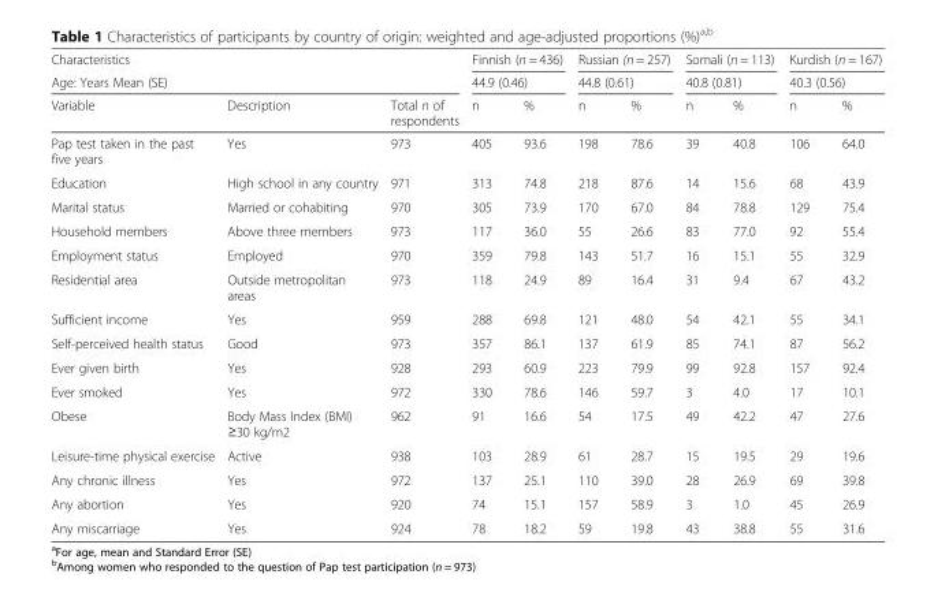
<table><thead><tr><td colspan="2">Characteristics</td><td></td><td rowspan="2" colspan="2">Finnish (n = 436) 44.9 (0.46)</td><td rowspan="2" colspan="2">Russian (n = 257) 44.8 (0.61)</td><td rowspan="2" colspan="2">Somali (n = 113) 40.8 (0.81)</td><td rowspan="2" colspan="2">Kurdish (n = 167) 40.3 (0.56)</td></tr><tr><td colspan="3">Age: Years Mean (SE)</td></tr><tr><td>Variable</td><td>Description</td><td>Total n of respondents</td><td>n</td><td>%</td><td>n</td><td>%</td><td>n</td><td>%</td><td>n</td><td>%</td></tr></thead><tbody><tr><td>Pap test taken in the past five years</td><td>Yes</td><td>973</td><td>405</td><td>93.6</td><td>198</td><td>78.6</td><td>39</td><td>40.8</td><td>106</td><td>64.0</td></tr><tr><td>Education</td><td>High school in any country</td><td>971</td><td>313</td><td>74.8</td><td>218</td><td>87.6</td><td>14</td><td>15.6</td><td>68</td><td>43.9</td></tr><tr><td>Marital status</td><td>Married or cohabiting</td><td>970</td><td>305</td><td>73.9</td><td>170</td><td>67.0</td><td>84</td><td>78.8</td><td>129</td><td>75.4</td></tr><tr><td>Household members</td><td>Above three members</td><td>973</td><td>117</td><td>36.0</td><td>55</td><td>26.6</td><td>83</td><td>77.0</td><td>92</td><td>55.4</td></tr><tr><td>Employment status</td><td>Employed</td><td>970</td><td>359</td><td>79.8</td><td>143</td><td>51.7</td><td>16</td><td>15.1</td><td>55</td><td>32.9</td></tr><tr><td>Residential area</td><td>Outside metropolitan areas</td><td>973</td><td>118</td><td>24.9</td><td>89</td><td>16.4</td><td>31</td><td>9.4</td><td>67</td><td>43.2</td></tr><tr><td>Sufficient income</td><td>Yes</td><td>959</td><td>288</td><td>69.8</td><td>121</td><td>48.0</td><td>54</td><td>42.1</td><td>55</td><td>34.1</td></tr><tr><td>Self-perceived health status</td><td>Good</td><td>973</td><td>357</td><td>86.1</td><td>137</td><td>61.9</td><td>85</td><td>74.1</td><td>87</td><td>56.2</td></tr><tr><td>Ever given birth</td><td>Yes</td><td>928</td><td>293</td><td>60.9</td><td>223</td><td>79.9</td><td>99</td><td>92.8</td><td>157</td><td>92.4</td></tr><tr><td>Ever smoked</td><td>Yes</td><td>972</td><td>330</td><td>78.6</td><td>146</td><td>59.7</td><td>3</td><td>4.0</td><td>17</td><td>10.1</td></tr><tr><td>Obese</td><td>Body Mass Index (BMI) ≥30 kg/m2</td><td>962</td><td>91</td><td>16.6</td><td>54</td><td>17.5</td><td>49</td><td>42.2</td><td>47</td><td>27.6</td></tr><tr><td>Leisure-time physical exercise</td><td>Active</td><td>938</td><td>103</td><td>28.9</td><td>61</td><td>28.7</td><td>15</td><td>19.5</td><td>29</td><td>19.6</td></tr><tr><td>Any chronic illness</td><td>Yes</td><td>972</td><td>137</td><td>25.1</td><td>110</td><td>39.0</td><td>28</td><td>26.9</td><td>69</td><td>39.8</td></tr><tr><td>Any abortion</td><td>Yes</td><td>920</td><td>74</td><td>15.1</td><td>157</td><td>58.9</td><td>3</td><td>1.0</td><td>45</td><td>26.9</td></tr><tr><td>Any miscarriage</td><td>Yes</td><td>924</td><td>78</td><td>18.2</td><td>59</td><td>19.8</td><td>43</td><td>38.8</td><td>55</td><td>31.6</td></tr></tbody></table>